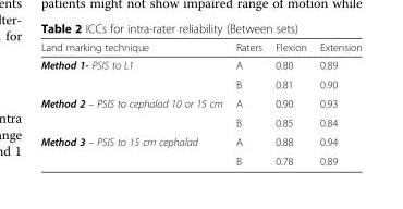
<table><thead><tr><td>Land marking technique</td><td>Raters</td><td>Flexion</td><td>Extension</td></tr></thead><tbody><tr><td rowspan="2">Method 1- PSIS to L1</td><td>A</td><td>0.80</td><td>0.89</td></tr><tr><td>B</td><td>0.81</td><td>0.90</td></tr><tr><td rowspan="2">Method 2 – PSIS to cephalad 10 or 15 cm</td><td>A</td><td>0.90</td><td>0.93</td></tr><tr><td>B</td><td>0.85</td><td>0.84</td></tr><tr><td rowspan="2">Method 3 – PSIS to 15 cm cephalad</td><td>A</td><td>0.88</td><td>0.94</td></tr><tr><td>B</td><td>0.78</td><td>0.89</td></tr></tbody></table>